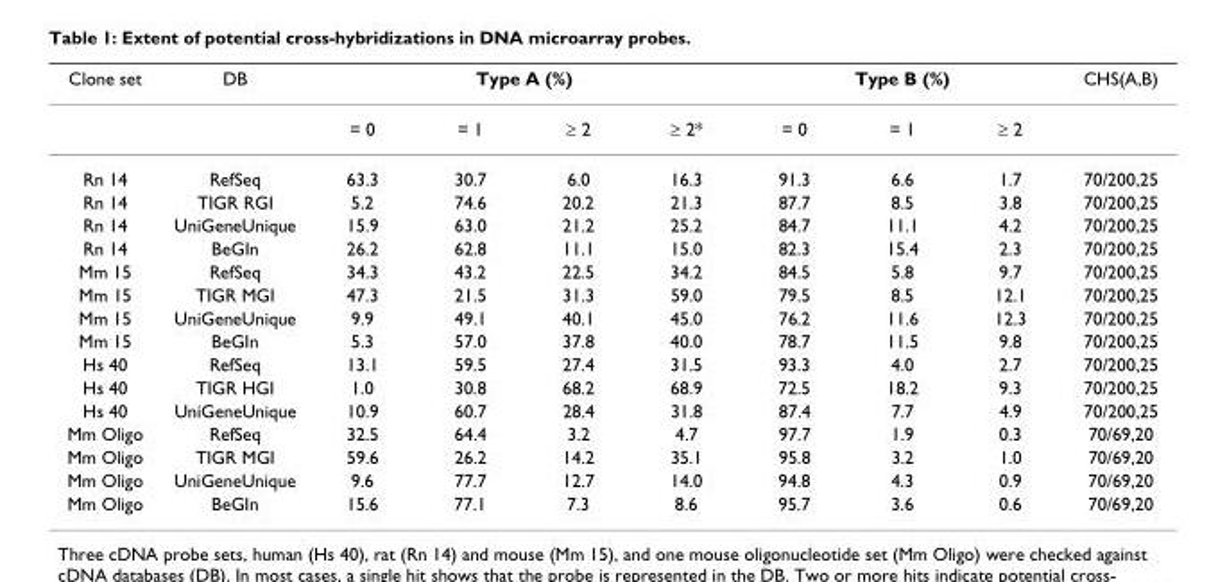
<table><thead><tr><td rowspan="2">Clone set</td><td rowspan="2">DB</td><td colspan="4">Type A (%)</td><td colspan="3">Type B (%)</td><td rowspan="2">CHS(A,B)</td></tr><tr><td>= 0</td><td>= 1</td><td>≥ 2</td><td>≥ 2*</td><td>= 0</td><td>= 1</td><td>≥ 2</td></tr></thead><tbody><tr><td>Rn 14</td><td>RefSeq</td><td>63.3</td><td>30.7</td><td>6.0</td><td>16.3</td><td>91.3</td><td>6.6</td><td>1.7</td><td>70/200,25</td></tr><tr><td>Rn 14</td><td>TIGR RGI</td><td>5.2</td><td>74.6</td><td>20.2</td><td>21.3</td><td>87.7</td><td>8.5</td><td>3.8</td><td>70/200,25</td></tr><tr><td>Rn 14</td><td>UniGeneUnique</td><td>15.9</td><td>63.0</td><td>21.2</td><td>25.2</td><td>84.7</td><td>11.1</td><td>4.2</td><td>70/200,25</td></tr><tr><td>Rn 14</td><td>BeGIn</td><td>26.2</td><td>62.8</td><td>11.1</td><td>15.0</td><td>82.3</td><td>15.4</td><td>2.3</td><td>70/200,25</td></tr><tr><td>Mm 15</td><td>RefSeq</td><td>34.3</td><td>43.2</td><td>22.5</td><td>34.2</td><td>84.5</td><td>5.8</td><td>9.7</td><td>70/200,25</td></tr><tr><td>Mm 15</td><td>TIGR MGI</td><td>47.3</td><td>21.5</td><td>31.3</td><td>59.0</td><td>79.5</td><td>8.5</td><td>12.1</td><td>70/200,25</td></tr><tr><td>Mm 15</td><td>UniGeneUnique</td><td>9.9</td><td>49.1</td><td>40.1</td><td>45.0</td><td>76.2</td><td>11.6</td><td>12.3</td><td>70/200,25</td></tr><tr><td>Mm 15</td><td>BeGIn</td><td>5.3</td><td>57.0</td><td>37.8</td><td>40.0</td><td>78.7</td><td>11.5</td><td>9.8</td><td>70/200,25</td></tr><tr><td>Hs 40</td><td>RefSeq</td><td>13.1</td><td>59.5</td><td>27.4</td><td>31.5</td><td>93.3</td><td>4.0</td><td>2.7</td><td>70/200,25</td></tr><tr><td>Hs 40</td><td>TIGR HGI</td><td>1.0</td><td>30.8</td><td>68.2</td><td>68.9</td><td>72.5</td><td>18.2</td><td>9.3</td><td>70/200,25</td></tr><tr><td>Hs 40</td><td>UniGeneUnique</td><td>10.9</td><td>60.7</td><td>28.4</td><td>31.8</td><td>87.4</td><td>7.7</td><td>4.9</td><td>70/200,25</td></tr><tr><td>Mm Oligo</td><td>RefSeq</td><td>32.5</td><td>64.4</td><td>3.2</td><td>4.7</td><td>97.7</td><td>1.9</td><td>0.3</td><td>70/69,20</td></tr><tr><td>Mm Oligo</td><td>TIGR MGI</td><td>59.6</td><td>26.2</td><td>14.2</td><td>35.1</td><td>95.8</td><td>3.2</td><td>1.0</td><td>70/69,20</td></tr><tr><td>Mm Oligo</td><td>UniGeneUnique</td><td>9.6</td><td>77.7</td><td>12.7</td><td>14.0</td><td>94.8</td><td>4.3</td><td>0.9</td><td>70/69,20</td></tr><tr><td>Mm Oligo</td><td>BeGIn</td><td>15.6</td><td>77.1</td><td>7.3</td><td>8.6</td><td>95.7</td><td>3.6</td><td>0.6</td><td>70/69,20</td></tr></tbody></table>